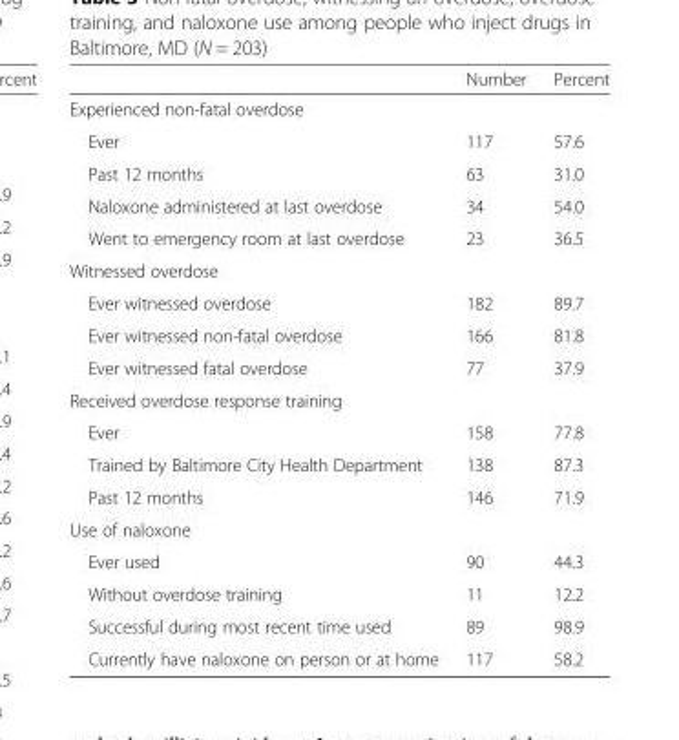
<table><thead><tr><td></td><td>Number</td><td>Percent</td></tr></thead><tbody><tr><td colspan="3">Experienced non-fatal overdose</td></tr><tr><td>Ever</td><td>117</td><td>57.6</td></tr><tr><td>Past 12 months</td><td>63</td><td>31.0</td></tr><tr><td>Naloxone administered at last overdose</td><td>34</td><td>54.0</td></tr><tr><td>Went to emergency room at last overdose</td><td>23</td><td>36.5</td></tr><tr><td colspan="3">Witnessed overdose</td></tr><tr><td>Ever witnessed overdose</td><td>182</td><td>89.7</td></tr><tr><td>Ever witnessed non-fatal overdose</td><td>166</td><td>81.8</td></tr><tr><td>Ever witnessed fatal overdose</td><td>77</td><td>37.9</td></tr><tr><td colspan="3">Received overdose response training</td></tr><tr><td>Ever</td><td>158</td><td>77.8</td></tr><tr><td>Trained by Baltimore City Health Department</td><td>138</td><td>87.3</td></tr><tr><td>Past 12 months</td><td>146</td><td>71.9</td></tr><tr><td colspan="3">Use of naloxone</td></tr><tr><td>Ever used</td><td>90</td><td>44.3</td></tr><tr><td>Without overdose training</td><td>11</td><td>12.2</td></tr><tr><td>Successful during most recent time used</td><td>89</td><td>98.9</td></tr><tr><td>Currently have naloxone on person or at home</td><td>117</td><td>58.2</td></tr></tbody></table>